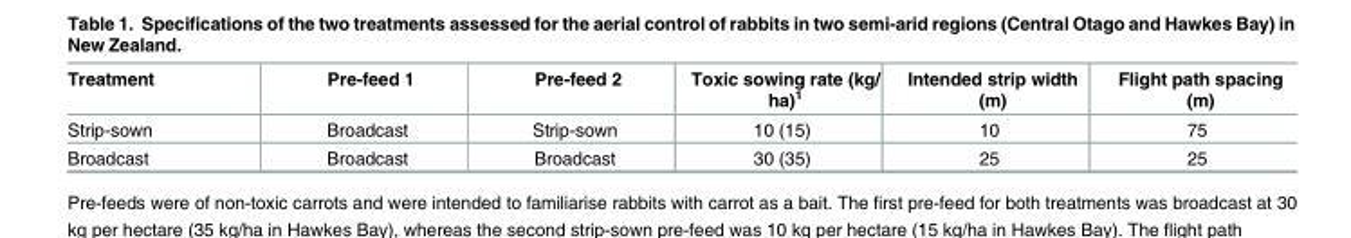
<table><thead><tr><td>Treatment</td><td>Pre-feed 1</td><td>Pre-feed 2</td><td>Toxic sowing rate (kg/ ha)<sup>1</sup></td><td>Intended strip width (m)</td><td>Flight path spacing (m)</td></tr></thead><tbody><tr><td>Strip-sown</td><td>Broadcast</td><td>Strip-sown</td><td>10 (15)</td><td>10</td><td>75</td></tr><tr><td>Broadcast</td><td>Broadcast</td><td>Broadcast</td><td>30 (35)</td><td>25</td><td>25</td></tr></tbody></table>